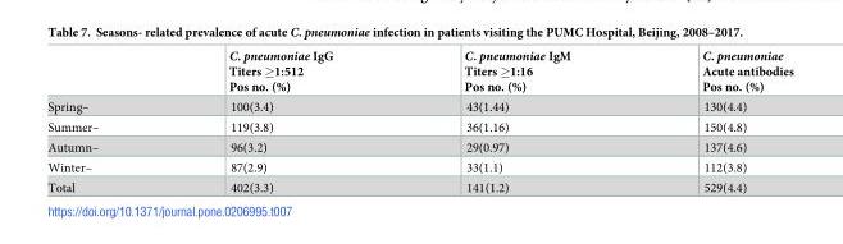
<table><thead><tr><td></td><td>C. pneumoniae IgG Titers ≥1:512 Pos no. (%)</td><td>C. pneumoniae IgM Titers ≥1:16 Pos no. (%)</td><td>C. pneumoniae Acute antibodies Pos no. (%)</td></tr></thead><tbody><tr><td>Spring–</td><td>100(3.4)</td><td>43(1.44)</td><td>130(4.4)</td></tr><tr><td>Summer–</td><td>119(3.8)</td><td>36(1.16)</td><td>150(4.8)</td></tr><tr><td>Autumn–</td><td>96(3.2)</td><td>29(0.97)</td><td>137(4.6)</td></tr><tr><td>Winter–</td><td>87(2.9)</td><td>33(1.1)</td><td>112(3.8)</td></tr><tr><td>Total</td><td>402(3.3)</td><td>141(1.2)</td><td>529(4.4)</td></tr></tbody></table>